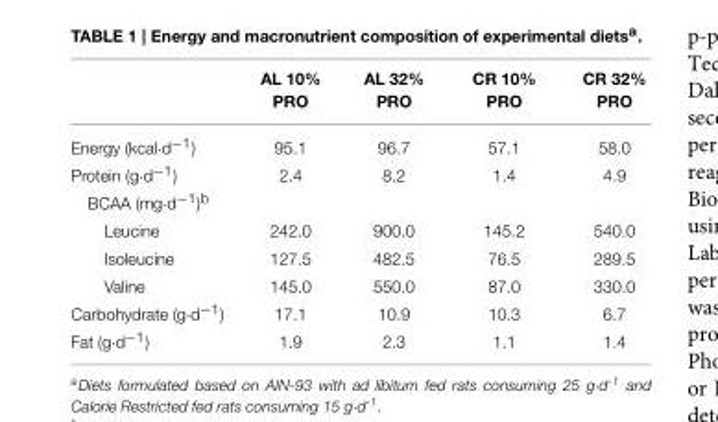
<table><thead><tr><td></td><td>AL 10% PRO</td><td>AL 32% PRO</td><td>CR 10% PRO</td><td>CR 32% PRO</td></tr></thead><tbody><tr><td>Energy (kcal·d<sup>−1</sup>)</td><td>95.1</td><td>96.7</td><td>57.1</td><td>58.0</td></tr><tr><td>Protein (g·d<sup>−1</sup>)</td><td>2.4</td><td>8.2</td><td>1.4</td><td>4.9</td></tr><tr><td colspan="5">BCAA (mg·d<sup>−1</sup>)<sup>b</sup></td></tr><tr><td>Leucine</td><td>242.0</td><td>900.0</td><td>145.2</td><td>540.0</td></tr><tr><td>Isoleucine</td><td>127.5</td><td>482.5</td><td>76.5</td><td>289.5</td></tr><tr><td>Valine</td><td>145.0</td><td>550.0</td><td>87.0</td><td>330.0</td></tr><tr><td>Carbohydrate (g·d<sup>−1</sup>)</td><td>17.1</td><td>10.9</td><td>10.3</td><td>6.7</td></tr><tr><td>Fat (g·d<sup>−1</sup>)</td><td>1.9</td><td>2.3</td><td>1.1</td><td>1.4</td></tr></tbody></table>